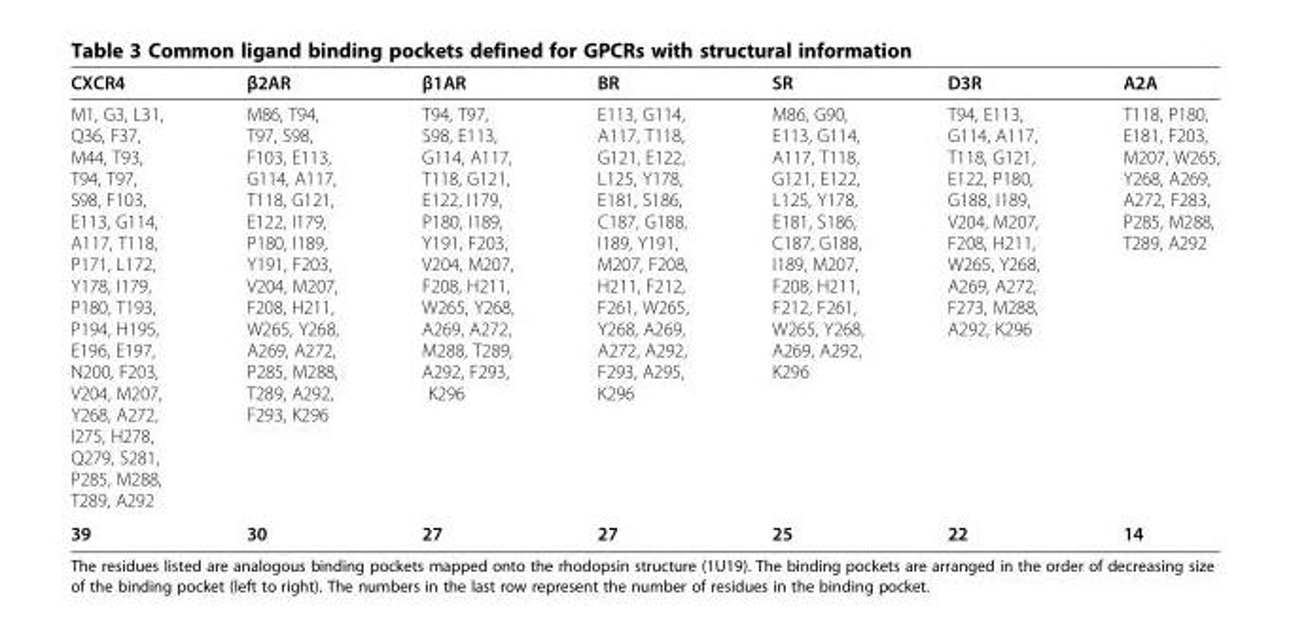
<table><thead><tr><td>CXCR4</td><td>β2AR</td><td>β1AR</td><td>BR</td><td>SR</td><td>D3R</td><td>A2A</td></tr></thead><tbody><tr><td>M1, G3, L31, Q36, F37, M44, T93, T94, T97, S98, F103, E113, G114, A117, T118, P171, L172, Y178, I179, P180, T193, P194, H195, E196, E197, N200, F203, V204, M207, Y268, A272, I275, H278, Q279, S281, P285, M288, T289, A292</td><td>M86, T94, T97, S98, F103, E113, G114, A117, T118, G121, E122, I179, P180, I189, Y191, F203, V204, M207, F208, H211, W265, Y268, A269, A272, P285, M288, T289, A292, F293, K296</td><td>T94, T97, S98, E113, G114, A117, T118, G121, E122, I179, P180, I189, Y191, F203, V204, M207, F208, H211, W265, Y268, A269, A272, M288, T289, A292, F293, K296</td><td>E113, G114, A117, T118, G121, E122, L125, Y178, E181, S186, C187, G188, I189, Y191, M207, F208, H211, F212, F261, W265, Y268, A269, A272, A292, F293, A295, K296</td><td>M86, G90, E113, G114, A117, T118, G121, E122, L125, Y178, E181, S186, C187, G188, I189, M207, F208, H211, F212, F261, W265, Y268, A269, A292, K296</td><td>T94, E113, G114, A117, T118, G121, E122, P180, G188, I189, V204, M207, F208, H211, W265, Y268, A269, A272, F273, M288, A292, K296</td><td>T118, P180, E181, F203, M207, W265, Y268, A269, A272, F283, P285, M288, T289, A292</td></tr><tr><td>39</td><td>30</td><td>27</td><td>27</td><td>25</td><td>22</td><td>14</td></tr></tbody></table>